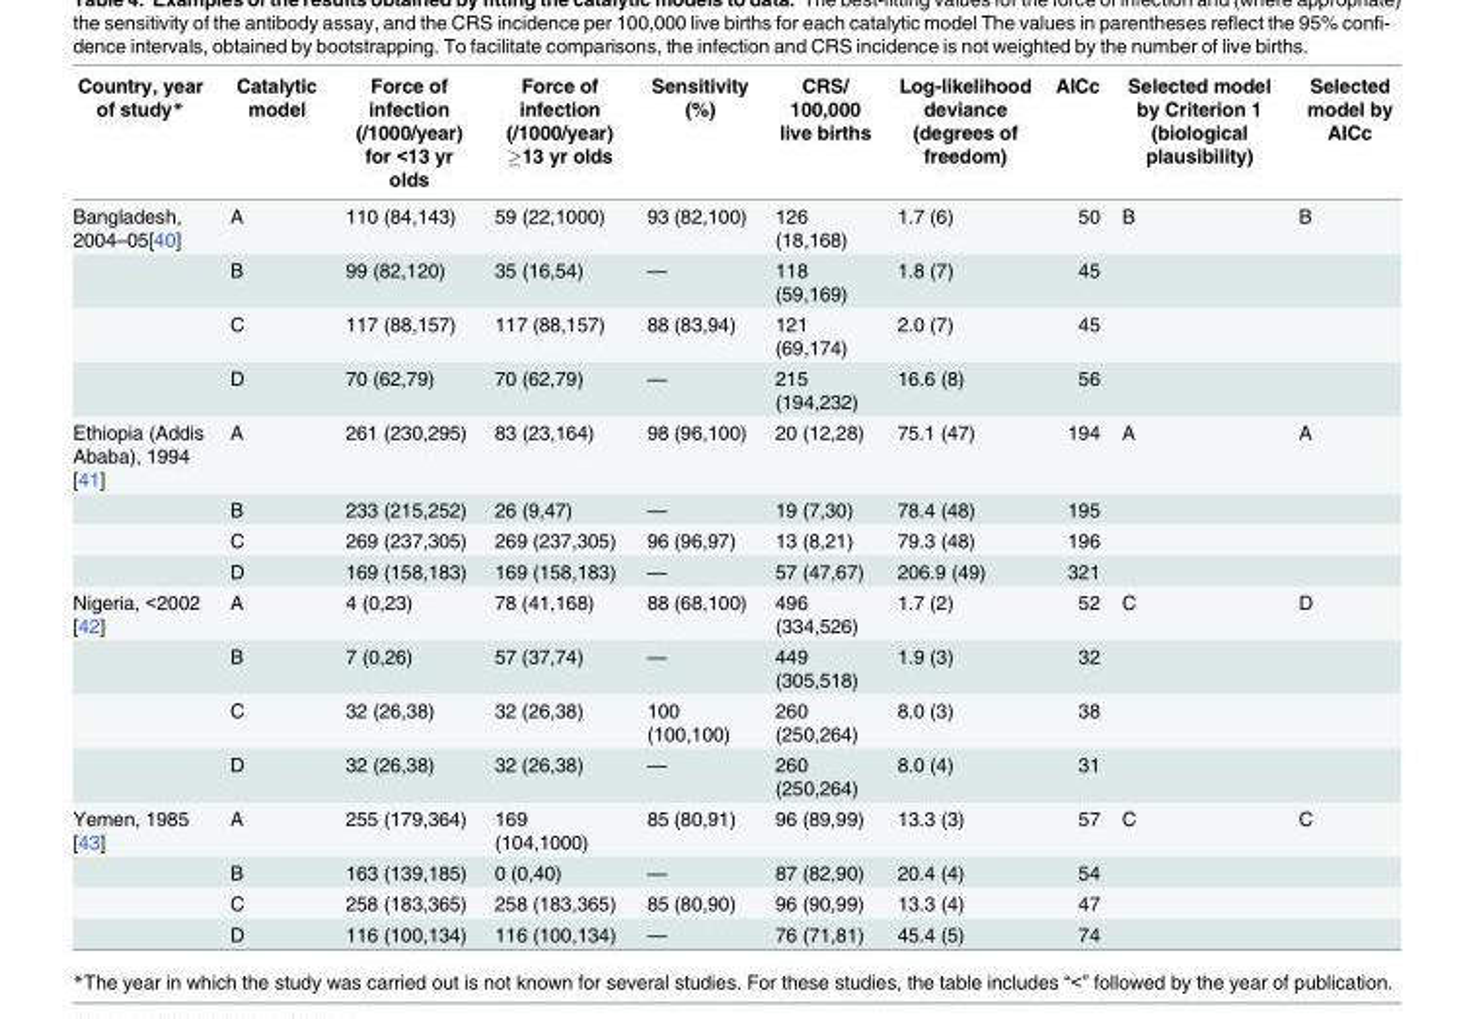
<table><thead><tr><td>Country, year of study*</td><td>Catalytic model</td><td>Force of infection (/1000/year) for &lt;13 yr olds</td><td>Force of infection (/1000/year) ≥13 yr olds</td><td>Sensitivity (%)</td><td>CRS/ 100,000 live births</td><td>Log-likelihood deviance (degrees of freedom)</td><td>AICc</td><td>Selected model by Criterion 1 (biological plausibility)</td><td>Selected model by AICc</td></tr></thead><tbody><tr><td rowspan="4">Bangladesh, 2004–05[40]</td><td>A</td><td>110 (84,143)</td><td>59 (22,1000)</td><td>93 (82,100)</td><td>126 (18,168)</td><td>1.7 (6)</td><td>50</td><td>B</td><td>B</td></tr><tr><td>B</td><td>99 (82,120)</td><td>35 (16,54)</td><td>—</td><td>118 (59,169)</td><td>1.8 (7)</td><td>45</td><td></td><td></td></tr><tr><td>C</td><td>117 (88,157)</td><td>117 (88,157)</td><td>88 (83,94)</td><td>121 (69,174)</td><td>2.0 (7)</td><td>45</td><td></td><td></td></tr><tr><td>D</td><td>70 (62,79)</td><td>70 (62,79)</td><td>—</td><td>215 (194,232)</td><td>16.6 (8)</td><td>56</td><td></td><td></td></tr><tr><td rowspan="4">Ethiopia (Addis Ababa), 1994 [41]</td><td>A</td><td>261 (230,295)</td><td>83 (23,164)</td><td>98 (96,100)</td><td>20 (12,28)</td><td>75.1 (47)</td><td>194</td><td>A</td><td>A</td></tr><tr><td>B</td><td>233 (215,252)</td><td>26 (9,47)</td><td>—</td><td>19 (7,30)</td><td>78.4 (48)</td><td>195</td><td></td><td></td></tr><tr><td>C</td><td>269 (237,305)</td><td>269 (237,305)</td><td>96 (96,97)</td><td>13 (8,21)</td><td>79.3 (48)</td><td>196</td><td></td><td></td></tr><tr><td>D</td><td>169 (158,183)</td><td>169 (158,183)</td><td>—</td><td>57 (47,67)</td><td>206.9 (49)</td><td>321</td><td></td><td></td></tr><tr><td rowspan="4">Nigeria, &lt;2002 [42]</td><td>A</td><td>4 (0,23)</td><td>78 (41,168)</td><td>88 (68,100)</td><td>496 (334,526)</td><td>1.7 (2)</td><td>52</td><td>C</td><td>D</td></tr><tr><td>B</td><td>7 (0,26)</td><td>57 (37,74)</td><td>—</td><td>449 (305,518)</td><td>1.9 (3)</td><td>32</td><td></td><td></td></tr><tr><td>C</td><td>32 (26,38)</td><td>32 (26,38)</td><td>100 (100,100)</td><td>260 (250,264)</td><td>8.0 (3)</td><td>38</td><td></td><td></td></tr><tr><td>D</td><td>32 (26,38)</td><td>32 (26,38)</td><td>—</td><td>260 (250,264)</td><td>8.0 (4)</td><td>31</td><td></td><td></td></tr><tr><td rowspan="4">Yemen, 1985 [43]</td><td>A</td><td>255 (179,364)</td><td>169 (104,1000)</td><td>85 (80,91)</td><td>96 (89,99)</td><td>13.3 (3)</td><td>57</td><td>C</td><td>C</td></tr><tr><td>B</td><td>163 (139,185)</td><td>0 (0,40)</td><td>—</td><td>87 (82,90)</td><td>20.4 (4)</td><td>54</td><td></td><td></td></tr><tr><td>C</td><td>258 (183,365)</td><td>258 (183,365)</td><td>85 (80,90)</td><td>96 (90,99)</td><td>13.3 (4)</td><td>47</td><td></td><td></td></tr><tr><td>D</td><td>116 (100,134)</td><td>116 (100,134)</td><td>—</td><td>76 (71,81)</td><td>45.4 (5)</td><td>74</td><td></td><td></td></tr></tbody></table>